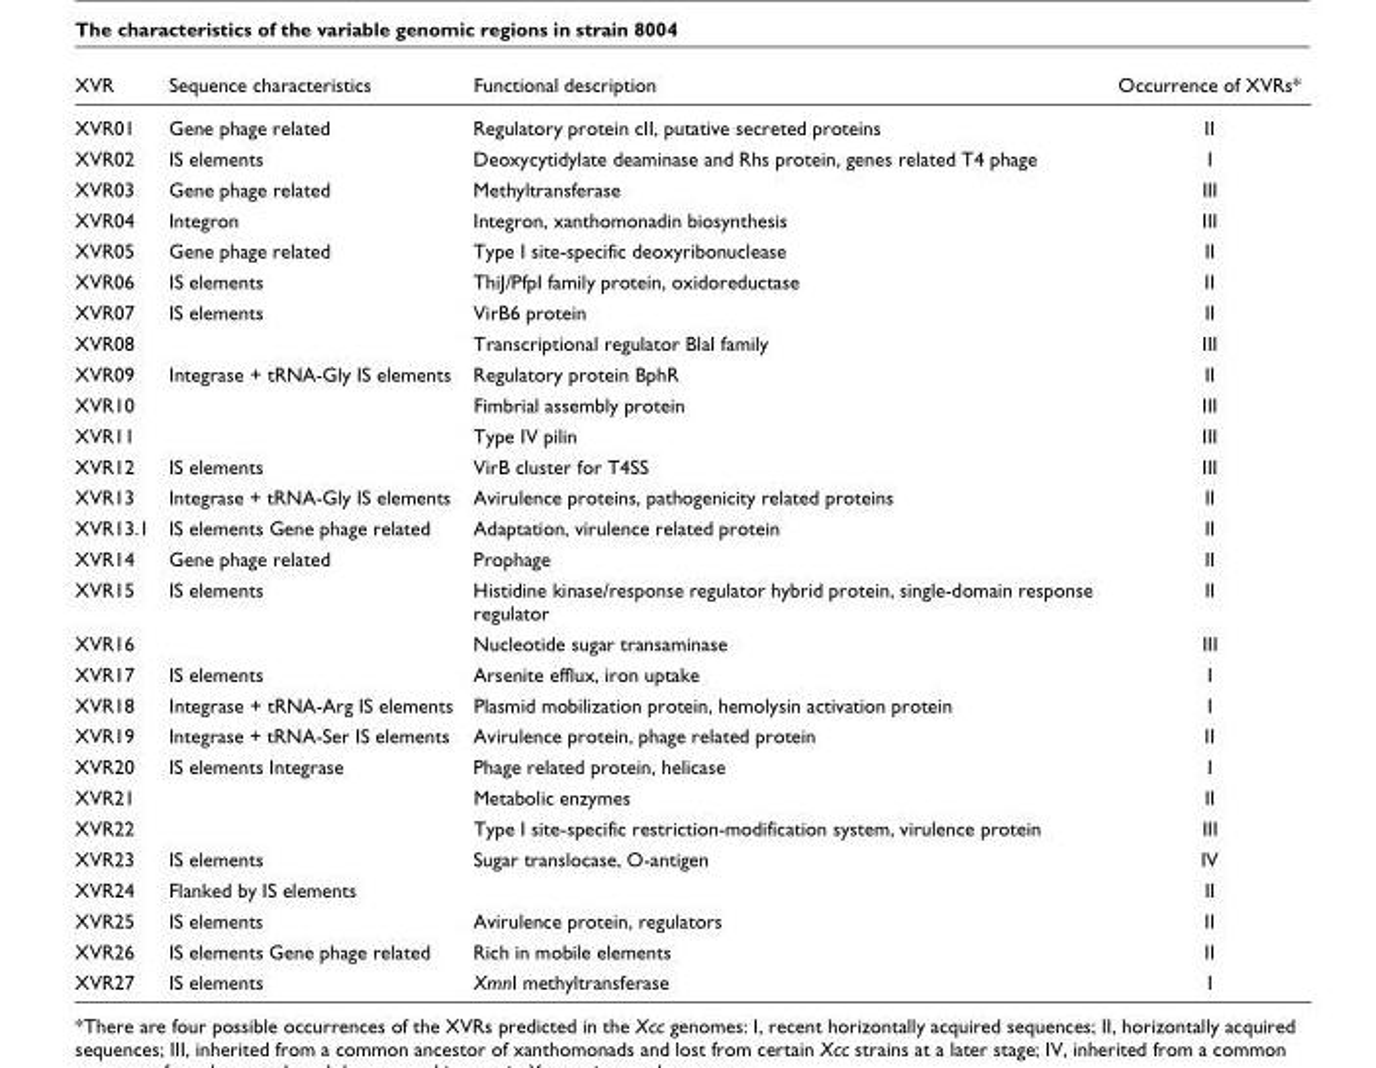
<table><thead><tr><td>XVR</td><td>Sequence characteristics</td><td>Functional description</td><td>Occurrence of XVRs*</td></tr></thead><tbody><tr><td>XVR01</td><td>Gene phage related</td><td>Regulatory protein cII, putative secreted proteins</td><td>II</td></tr><tr><td>XVR02</td><td>IS elements</td><td>Deoxycytidylate deaminase and Rhs protein, genes related T4 phage</td><td>I</td></tr><tr><td>XVR03</td><td>Gene phage related</td><td>Methyltransferase</td><td>III</td></tr><tr><td>XVR04</td><td>Integron</td><td>Integron, xanthomonadin biosynthesis</td><td>III</td></tr><tr><td>XVR05</td><td>Gene phage related</td><td>Type I site-specific deoxyribonuclease</td><td>II</td></tr><tr><td>XVR06</td><td>IS elements</td><td>ThiJ/PfpI family protein, oxidoreductase</td><td>II</td></tr><tr><td>XVR07</td><td>IS elements</td><td>VirB6 protein</td><td>II</td></tr><tr><td>XVR08</td><td></td><td>Transcriptional regulator BlaI family</td><td>III</td></tr><tr><td>XVR09</td><td>Integrase + tRNA-Gly IS elements</td><td>Regulatory protein BphR</td><td>II</td></tr><tr><td>XVR10</td><td></td><td>Fimbrial assembly protein</td><td>III</td></tr><tr><td>XVR11</td><td></td><td>Type IV pilin</td><td>III</td></tr><tr><td>XVR12</td><td>IS elements</td><td>VirB cluster for T4SS</td><td>III</td></tr><tr><td>XVR13</td><td>Integrase + tRNA-Gly IS elements</td><td>Avirulence proteins, pathogenicity related proteins</td><td>II</td></tr><tr><td>XVR13.1</td><td>IS elements Gene phage related</td><td>Adaptation, virulence related protein</td><td>II</td></tr><tr><td>XVR14</td><td>Gene phage related</td><td>Prophage</td><td>II</td></tr><tr><td>XVR15</td><td>IS elements</td><td>Histidine kinase/response regulator hybrid protein, single-domain response regulator</td><td>II</td></tr><tr><td>XVR16</td><td></td><td>Nucleotide sugar transaminase</td><td>III</td></tr><tr><td>XVR17</td><td>IS elements</td><td>Arsenite efflux, iron uptake</td><td>I</td></tr><tr><td>XVR18</td><td>Integrase + tRNA-Arg IS elements</td><td>Plasmid mobilization protein, hemolysin activation protein</td><td>I</td></tr><tr><td>XVR19</td><td>Integrase + tRNA-Ser IS elements</td><td>Avirulence protein, phage related protein</td><td>II</td></tr><tr><td>XVR20</td><td>IS elements Integrase</td><td>Phage related protein, helicase</td><td>I</td></tr><tr><td>XVR21</td><td></td><td>Metabolic enzymes</td><td>II</td></tr><tr><td>XVR22</td><td></td><td>Type I site-specific restriction-modification system, virulence protein</td><td>III</td></tr><tr><td>XVR23</td><td>IS elements</td><td>Sugar translocase, O-antigen</td><td>IV</td></tr><tr><td>XVR24</td><td>Flanked by IS elements</td><td></td><td>II</td></tr><tr><td>XVR25</td><td>IS elements</td><td>Avirulence protein, regulators</td><td>II</td></tr><tr><td>XVR26</td><td>IS elements Gene phage related</td><td>Rich in mobile elements</td><td>II</td></tr><tr><td>XVR27</td><td>IS elements</td><td>XmnI methyltransferase</td><td>I</td></tr></tbody></table>